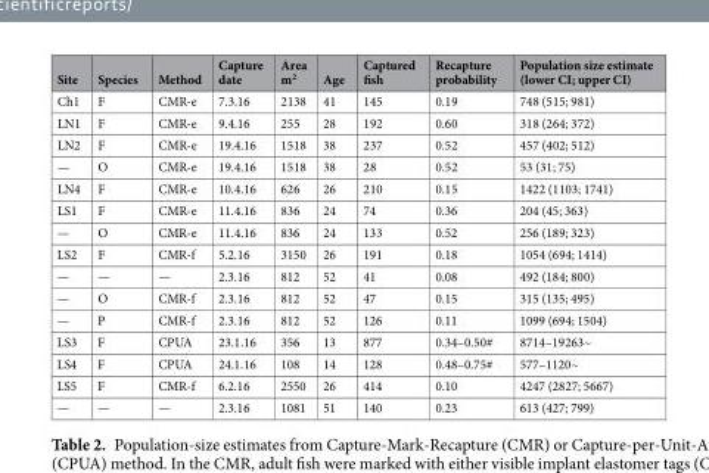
<table><thead><tr><td>Site</td><td>Species</td><td>Method</td><td>Capture date</td><td>Area m<sup>2</sup></td><td>Age</td><td>Captured fish</td><td>Recapture probability</td><td>Population size estimate (lower CI; upper CI)</td></tr></thead><tbody><tr><td>Ch1</td><td>F</td><td>CMR-e</td><td>7.3.16</td><td>2138</td><td>41</td><td>145</td><td>0.19</td><td>748 (515; 981)</td></tr><tr><td>LN1</td><td>F</td><td>CMR-e</td><td>9.4.16</td><td>255</td><td>28</td><td>192</td><td>0.60</td><td>318 (264; 372)</td></tr><tr><td>LN2</td><td>F</td><td>CMR-e</td><td>19.4.16</td><td>1518</td><td>38</td><td>237</td><td>0.52</td><td>457 (402; 512)</td></tr><tr><td>—</td><td>O</td><td>CMR-e</td><td>19.4.16</td><td>1518</td><td>38</td><td>28</td><td>0.52</td><td>53 (31; 75)</td></tr><tr><td>LN4</td><td>F</td><td>CMR-e</td><td>10.4.16</td><td>626</td><td>26</td><td>210</td><td>0.15</td><td>1422 (1103; 1741)</td></tr><tr><td>LS1</td><td>F</td><td>CMR-e</td><td>11.4.16</td><td>836</td><td>24</td><td>74</td><td>0.36</td><td>204 (45; 363)</td></tr><tr><td>—</td><td>O</td><td>CMR-e</td><td>11.4.16</td><td>836</td><td>24</td><td>133</td><td>0.52</td><td>256 (189; 323)</td></tr><tr><td>LS2</td><td>F</td><td>CMR-f</td><td>5.2.16</td><td>3150</td><td>26</td><td>191</td><td>0.18</td><td>1054 (694; 1414)</td></tr><tr><td>—</td><td>—</td><td>—</td><td>2.3.16</td><td>812</td><td>52</td><td>41</td><td>0.08</td><td>492 (184; 800)</td></tr><tr><td>—</td><td>O</td><td>CMR-f</td><td>2.3.16</td><td>812</td><td>52</td><td>47</td><td>0.15</td><td>315 (135; 495)</td></tr><tr><td>—</td><td>P</td><td>CMR-f</td><td>2.3.16</td><td>812</td><td>52</td><td>126</td><td>0.11</td><td>1099 (694; 1504)</td></tr><tr><td>LS3</td><td>F</td><td>CPUA</td><td>23.1.16</td><td>356</td><td>13</td><td>877</td><td>0.34–0.50#</td><td>8714–19263~</td></tr><tr><td>LS4</td><td>F</td><td>CPUA</td><td>24.1.16</td><td>108</td><td>14</td><td>128</td><td>0.48–0.75#</td><td>577–1120~</td></tr><tr><td>LS5</td><td>F</td><td>CMR-f</td><td>6.2.16</td><td>2550</td><td>26</td><td>414</td><td>0.10</td><td>4247 (2827; 5667)</td></tr><tr><td>—</td><td>—</td><td>—</td><td>2.3.16</td><td>1081</td><td>51</td><td>140</td><td>0.23</td><td>613 (427; 799)</td></tr></tbody></table>